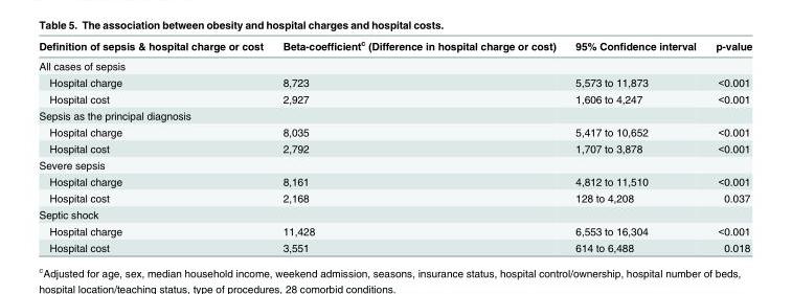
<table><thead><tr><td>Definition of sepsis &amp; hospital charge or cost</td><td>Beta-coefficient<sup>c</sup> (Difference in hospital charge or cost)</td><td>95% Confidence interval</td><td>p-value</td></tr></thead><tbody><tr><td colspan="4">All cases of sepsis</td></tr><tr><td>Hospital charge</td><td>8,723</td><td>5,573 to 11,873</td><td>&lt;0.001</td></tr><tr><td>Hospital cost</td><td>2,927</td><td>1,606 to 4,247</td><td>&lt;0.001</td></tr><tr><td colspan="4">Sepsis as the principal diagnosis</td></tr><tr><td>Hospital charge</td><td>8,035</td><td>5,417 to 10,652</td><td>&lt;0.001</td></tr><tr><td>Hospital cost</td><td>2,792</td><td>1,707 to 3,878</td><td>&lt;0.001</td></tr><tr><td colspan="4">Severe sepsis</td></tr><tr><td>Hospital charge</td><td>8,161</td><td>4,812 to 11,510</td><td>&lt;0.001</td></tr><tr><td>Hospital cost</td><td>2,168</td><td>128 to 4,208</td><td>0.037</td></tr><tr><td colspan="4">Septic shock</td></tr><tr><td>Hospital charge</td><td>11,428</td><td>6,553 to 16,304</td><td>&lt;0.001</td></tr><tr><td>Hospital cost</td><td>3,551</td><td>614 to 6,488</td><td>0.018</td></tr></tbody></table>